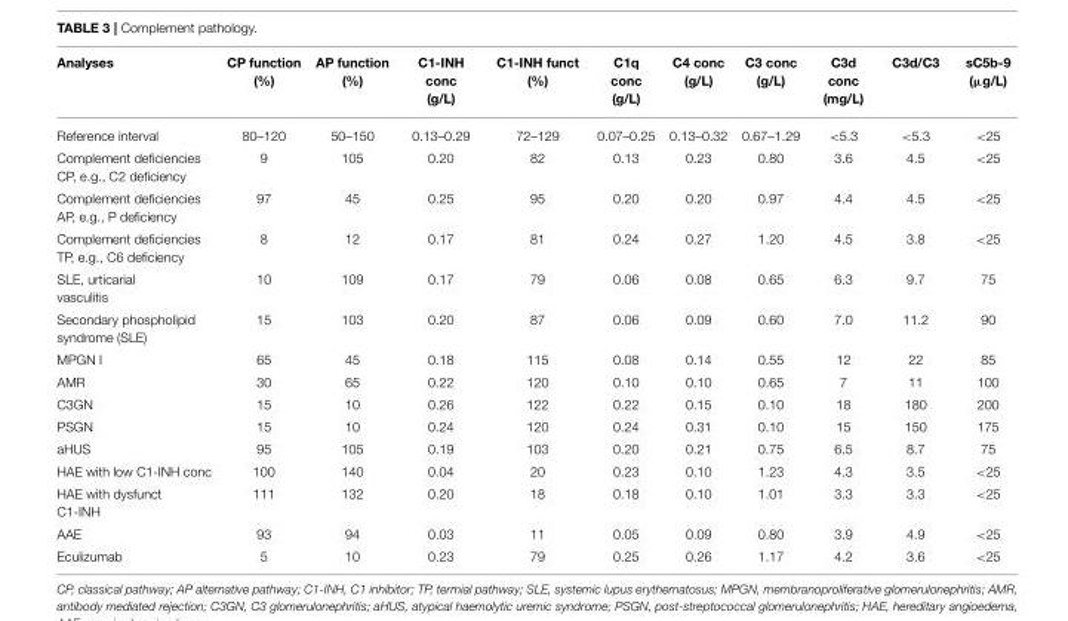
<table><thead><tr><td>Analyses</td><td>CP function (%)</td><td>AP function (%)</td><td>C1-INH conc (g/L)</td><td>C1-INH funct (%)</td><td>C1q conc (g/L)</td><td>C4 conc (g/L)</td><td>C3 conc (g/L)</td><td>C3d conc (mg/L)</td><td>C3d/C3</td><td>sC5b-9 (µg/L)</td></tr></thead><tbody><tr><td>Reference interval</td><td>80–120</td><td>50–150</td><td>0.13–0.29</td><td>72–129</td><td>0.07–0.25</td><td>0.13–0.32</td><td>0.67–1.29</td><td>&lt;5.3</td><td>&lt;5.3</td><td>&lt;25</td></tr><tr><td>Complement deficiencies CP, e.g., C2 deficiency</td><td>9</td><td>105</td><td>0.20</td><td>82</td><td>0.13</td><td>0.23</td><td>0.80</td><td>3.6</td><td>4.5</td><td>&lt;25</td></tr><tr><td>Complement deficiencies AP, e.g., P deficiency</td><td>97</td><td>45</td><td>0.25</td><td>95</td><td>0.20</td><td>0.20</td><td>0.97</td><td>4.4</td><td>4.5</td><td>&lt;25</td></tr><tr><td>Complement deficiencies TP, e.g., C6 deficiency</td><td>8</td><td>12</td><td>0.17</td><td>81</td><td>0.24</td><td>0.27</td><td>1.20</td><td>4.5</td><td>3.8</td><td>&lt;25</td></tr><tr><td>SLE, urticarial vasculitis</td><td>10</td><td>109</td><td>0.17</td><td>79</td><td>0.06</td><td>0.08</td><td>0.65</td><td>6.3</td><td>9.7</td><td>75</td></tr><tr><td>Secondary phospholipid syndrome (SLE)</td><td>15</td><td>103</td><td>0.20</td><td>87</td><td>0.06</td><td>0.09</td><td>0.60</td><td>7.0</td><td>11.2</td><td>90</td></tr><tr><td>MPGN I</td><td>65</td><td>45</td><td>0.18</td><td>115</td><td>0.08</td><td>0.14</td><td>0.55</td><td>12</td><td>22</td><td>85</td></tr><tr><td>AMR</td><td>30</td><td>65</td><td>0.22</td><td>120</td><td>0.10</td><td>0.10</td><td>0.65</td><td>7</td><td>11</td><td>100</td></tr><tr><td>C3GN</td><td>15</td><td>10</td><td>0.26</td><td>122</td><td>0.22</td><td>0.15</td><td>0.10</td><td>18</td><td>180</td><td>200</td></tr><tr><td>PSGN</td><td>15</td><td>10</td><td>0.24</td><td>120</td><td>0.24</td><td>0.31</td><td>0.10</td><td>15</td><td>150</td><td>175</td></tr><tr><td>aHUS</td><td>95</td><td>105</td><td>0.19</td><td>103</td><td>0.20</td><td>0.21</td><td>0.75</td><td>6.5</td><td>8.7</td><td>75</td></tr><tr><td>HAE with low C1-INH conc</td><td>100</td><td>140</td><td>0.04</td><td>20</td><td>0.23</td><td>0.10</td><td>1.23</td><td>4.3</td><td>3.5</td><td>&lt;25</td></tr><tr><td>HAE with dysfunct C1-INH</td><td>111</td><td>132</td><td>0.20</td><td>18</td><td>0.18</td><td>0.10</td><td>1.01</td><td>3.3</td><td>3.3</td><td>&lt;25</td></tr><tr><td>AAE</td><td>93</td><td>94</td><td>0.03</td><td>11</td><td>0.05</td><td>0.09</td><td>0.80</td><td>3.9</td><td>4.9</td><td>&lt;25</td></tr><tr><td>Eculizumab</td><td>5</td><td>10</td><td>0.23</td><td>79</td><td>0.25</td><td>0.26</td><td>1.17</td><td>4.2</td><td>3.6</td><td>&lt;25</td></tr></tbody></table>